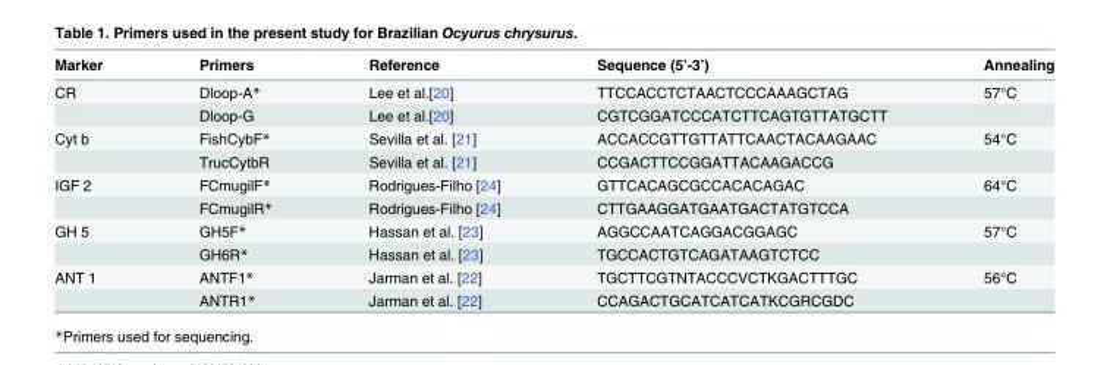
<table><thead><tr><td>Marker</td><td>Primers</td><td>Reference</td><td>Sequence (5’-3’)</td><td>Annealing</td></tr></thead><tbody><tr><td rowspan="2">CR</td><td>Dloop-A*</td><td>Lee et al.[20]</td><td>TTCCACCTCTAACTCCCAAAGCTAG</td><td>57°C</td></tr><tr><td>Dloop-G</td><td>Lee et al.[20]</td><td>CGTCGGATCCCATCTTCAGTGTTATGCTT</td><td></td></tr><tr><td rowspan="2">Cyt b</td><td>FishCybF*</td><td>Sevilla et al. [21]</td><td>ACCACCGTTGTTATTCAACTACAAGAAC</td><td>54°C</td></tr><tr><td>TrucCytbR</td><td>Sevilla et al. [21]</td><td>CCGACTTCCGGATTACAAGACCG</td><td></td></tr><tr><td rowspan="2">IGF 2</td><td>FCmugilF*</td><td>Rodrigues-Filho [24]</td><td>GTTCACAGCGCCACACAGAC</td><td>64°C</td></tr><tr><td>FCmugilR*</td><td>Rodrigues-Filho [24]</td><td>CTTGAAGGATGAATGACTATGTCCA</td><td></td></tr><tr><td rowspan="2">GH 5</td><td>GH5F*</td><td>Hassan et al. [23]</td><td>AGGCCAATCAGGACGGAGC</td><td>57°C</td></tr><tr><td>GH6R*</td><td>Hassan et al. [23]</td><td>TGCCACTGTCAGATAAGTCTCC</td><td></td></tr><tr><td rowspan="2">ANT 1</td><td>ANTF1*</td><td>Jarman et al. [22]</td><td>TGCTTCGTNTACCCVCTKGACTTTGC</td><td>56°C</td></tr><tr><td>ANTR1*</td><td>Jarman et al. [22]</td><td>CCAGACTGCATCATCATKCGRCGDC</td><td></td></tr></tbody></table>